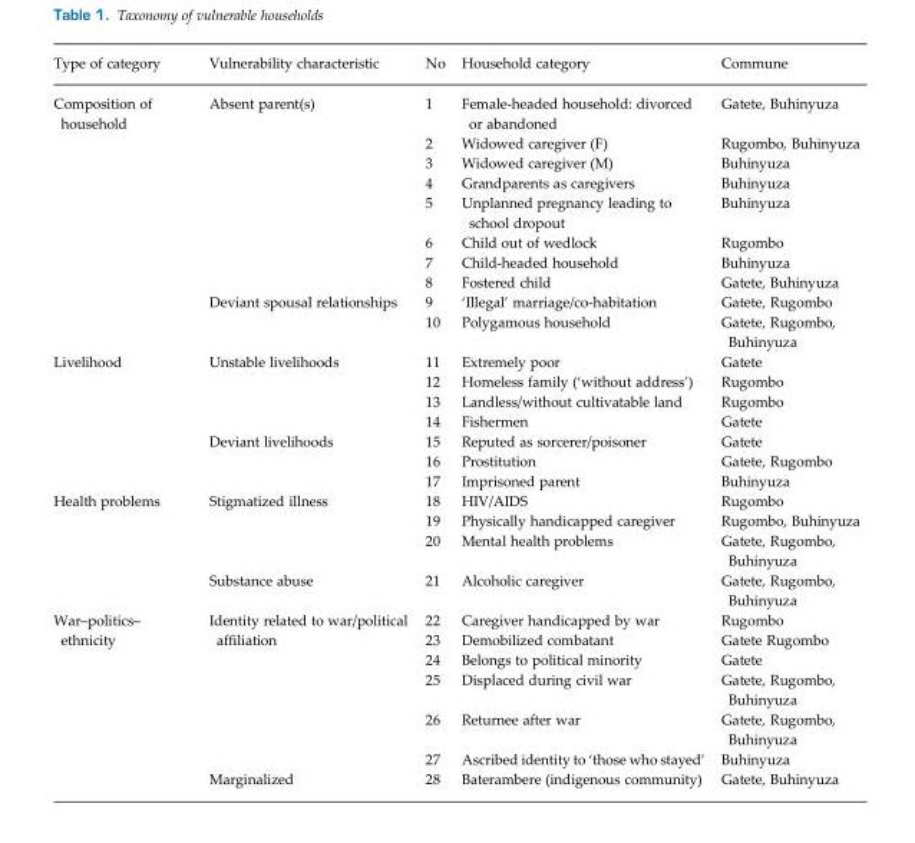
<table><thead><tr><td>Type of category</td><td>Vulnerability characteristic</td><td>No</td><td>Household category</td><td>Commune</td></tr></thead><tbody><tr><td rowspan="10">Composition of household</td><td rowspan="8">Absent parent(s)</td><td>1</td><td>Female-headed household: divorced or abandoned</td><td>Gatete, Buhinyuza</td></tr><tr><td>2</td><td>Widowed caregiver (F)</td><td>Rugombo, Buhinyuza</td></tr><tr><td>3</td><td>Widowed caregiver (M)</td><td>Buhinyuza</td></tr><tr><td>4</td><td>Grandparents as caregivers</td><td>Buhinyuza</td></tr><tr><td>5</td><td>Unplanned pregnancy leading to school dropout</td><td>Buhinyuza</td></tr><tr><td>6</td><td>Child out of wedlock</td><td>Rugombo</td></tr><tr><td>7</td><td>Child-headed household</td><td>Buhinyuza</td></tr><tr><td>8</td><td>Fostered child</td><td>Gatete, Buhinyuza</td></tr><tr><td rowspan="2">Deviant spousal relationships</td><td>9</td><td>‘Illegal’ marriage/co-habitation</td><td>Gatete, Rugombo</td></tr><tr><td>10</td><td>Polygamous household</td><td>Gatete, Rugombo, Buhinyuza</td></tr><tr><td rowspan="7">Livelihood</td><td rowspan="4">Unstable livelihoods</td><td>11</td><td>Extremely poor</td><td>Gatete</td></tr><tr><td>12</td><td>Homeless family (‘without address’)</td><td>Rugombo</td></tr><tr><td>13</td><td>Landless/without cultivatable land</td><td>Rugombo</td></tr><tr><td>14</td><td>Fishermen</td><td>Gatete</td></tr><tr><td rowspan="3">Deviant livelihoods</td><td>15</td><td>Reputed as sorcerer/poisoner</td><td>Gatete</td></tr><tr><td>16</td><td>Prostitution</td><td>Gatete, Rugombo</td></tr><tr><td>17</td><td>Imprisoned parent</td><td>Buhinyuza</td></tr><tr><td rowspan="4">Health problems</td><td rowspan="3">Stigmatized illness</td><td>18</td><td>HIV/AIDS</td><td>Rugombo</td></tr><tr><td>19</td><td>Physically handicapped caregiver</td><td>Rugombo, Buhinyuza</td></tr><tr><td>20</td><td>Mental health problems</td><td>Gatete, Rugombo, Buhinyuza</td></tr><tr><td>Substance abuse</td><td>21</td><td>Alcoholic caregiver</td><td>Gatete, Rugombo, Buhinyuza</td></tr><tr><td rowspan="7">War–politics– ethnicity</td><td rowspan="6">Identity related to war/political affiliation</td><td>22</td><td>Caregiver handicapped by war</td><td>Rugombo</td></tr><tr><td>23</td><td>Demobilized combatant</td><td>Gatete Rugombo</td></tr><tr><td>24</td><td>Belongs to political minority</td><td>Gatete</td></tr><tr><td>25</td><td>Displaced during civil war</td><td>Gatete, Rugombo, Buhinyuza</td></tr><tr><td>26</td><td>Returnee after war</td><td>Gatete, Rugombo, Buhinyuza</td></tr><tr><td>27</td><td>Ascribed identity to ‘those who stayed’</td><td>Buhinyuza</td></tr><tr><td>Marginalized</td><td>28</td><td>Baterambere (indigenous community)</td><td>Gatete, Buhinyuza</td></tr></tbody></table>